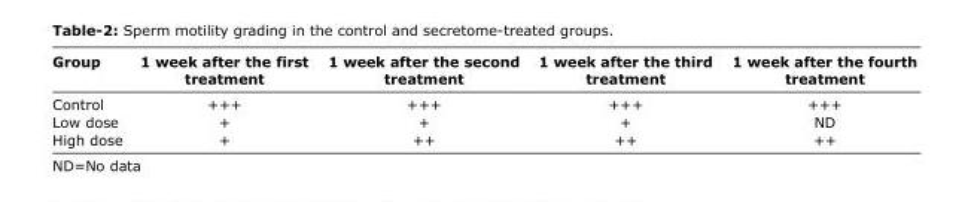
<table><thead><tr><td>Group</td><td>1 week after the first treatment</td><td>1 week after the second treatment</td><td>1 week after the third treatment</td><td>1 week after the fourth treatment</td></tr></thead><tbody><tr><td>Control</td><td>+++</td><td>+++</td><td>+++</td><td>+++</td></tr><tr><td>Low dose</td><td>+</td><td>+</td><td>+</td><td>ND</td></tr><tr><td>High dose</td><td>+</td><td>++</td><td>++</td><td>++</td></tr></tbody></table>